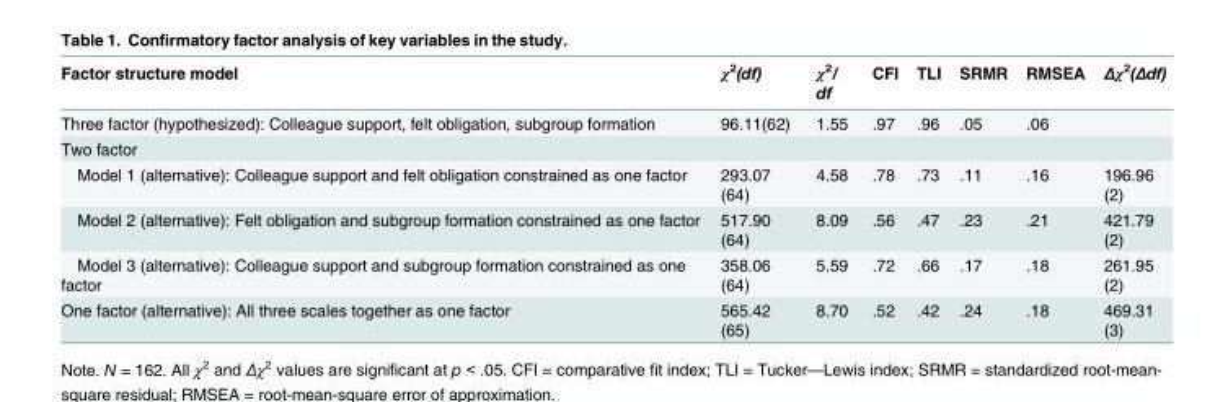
<table><thead><tr><td>Factor structure model</td><td>χ<sup>2</sup>(df)</td><td>χ<sup>2</sup>/ df</td><td>CFI</td><td>TLI</td><td>SRMR</td><td>RMSEA</td><td>Δχ<sup>2</sup>(Δdf)</td></tr></thead><tbody><tr><td>Three factor (hypothesized): Colleague support, felt obligation, subgroup formation</td><td>96.11(62)</td><td>1.55</td><td>.97</td><td>.96</td><td>.05</td><td>.06</td><td></td></tr><tr><td colspan="8">Two factor</td></tr><tr><td>Model 1 (alternative): Colleague support and felt obligation constrained as one factor</td><td>293.07 (64)</td><td>4.58</td><td>.78</td><td>.73</td><td>.11</td><td>.16</td><td>196.96 (2)</td></tr><tr><td>Model 2 (alternative): Felt obligation and subgroup formation constrained as one factor</td><td>517.90 (64)</td><td>8.09</td><td>.56</td><td>.47</td><td>.23</td><td>.21</td><td>421.79 (2)</td></tr><tr><td>Model 3 (alternative): Colleague support and subgroup formation constrained as one factor</td><td>358.06 (64)</td><td>5.59</td><td>.72</td><td>.66</td><td>.17</td><td>.18</td><td>261.95 (2)</td></tr><tr><td>One factor (alternative): All three scales together as one factor</td><td>565.42 (65)</td><td>8.70</td><td>.52</td><td>.42</td><td>.24</td><td>.18</td><td>469.31 (3)</td></tr></tbody></table>